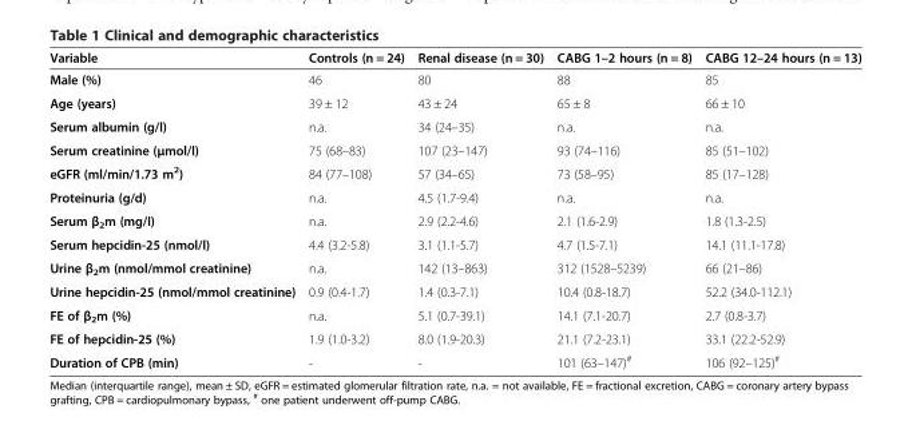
<table><thead><tr><td>Variable</td><td>Controls (n = 24)</td><td>Renal disease (n = 30)</td><td>CABG 1–2 hours (n = 8)</td><td>CABG 12–24 hours (n = 13)</td></tr></thead><tbody><tr><td>Male (%)</td><td>46</td><td>80</td><td>88</td><td>85</td></tr><tr><td>Age (years)</td><td>39 ± 12</td><td>43 ± 24</td><td>65 ± 8</td><td>66 ± 10</td></tr><tr><td>Serum albumin (g/l)</td><td>n.a.</td><td>34 (24–35)</td><td>n.a.</td><td>n.a.</td></tr><tr><td>Serum creatinine (μmol/l)</td><td>75 (68–83)</td><td>107 (23–147)</td><td>93 (74–116)</td><td>85 (51–102)</td></tr><tr><td>eGFR (ml/min/1.73 m<sup>2</sup>)</td><td>84 (77–108)</td><td>57 (34–65)</td><td>73 (58–95)</td><td>85 (17–128)</td></tr><tr><td>Proteinuria (g/d)</td><td>n.a.</td><td>4.5 (1.7-9.4)</td><td>n.a.</td><td>n.a.</td></tr><tr><td>Serum β<sub>2</sub>m (mg/l)</td><td>n.a.</td><td>2.9 (2.2-4.6)</td><td>2.1 (1.6-2.9)</td><td>1.8 (1.3-2.5)</td></tr><tr><td>Serum hepcidin-25 (nmol/l)</td><td>4.4 (3.2-5.8)</td><td>3.1 (1.1-5.7)</td><td>4.7 (1.5-7.1)</td><td>14.1 (11.1-17.8)</td></tr><tr><td>Urine β<sub>2</sub>m (nmol/mmol creatinine)</td><td>n.a.</td><td>142 (13–863)</td><td>312 (1528–5239)</td><td>66 (21–86)</td></tr><tr><td>Urine hepcidin-25 (nmol/mmol creatinine)</td><td>0.9 (0.4-1.7)</td><td>1.4 (0.3-7.1)</td><td>10.4 (0.8-18.7)</td><td>52.2 (34.0-112.1)</td></tr><tr><td>FE of β<sub>2</sub>m (%)</td><td>n.a.</td><td>5.1 (0.7-39.1)</td><td>14.1 (7.1-20.7)</td><td>2.7 (0.8-3.7)</td></tr><tr><td>FE of hepcidin-25 (%)</td><td>1.9 (1.0-3.2)</td><td>8.0 (1.9-20.3)</td><td>21.1 (7.2-23.1)</td><td>33.1 (22.2-52.9)</td></tr><tr><td>Duration of CPB (min)</td><td>-</td><td>-</td><td>101 (63–147)<sup>#</sup></td><td>106 (92–125)<sup>#</sup></td></tr></tbody></table>